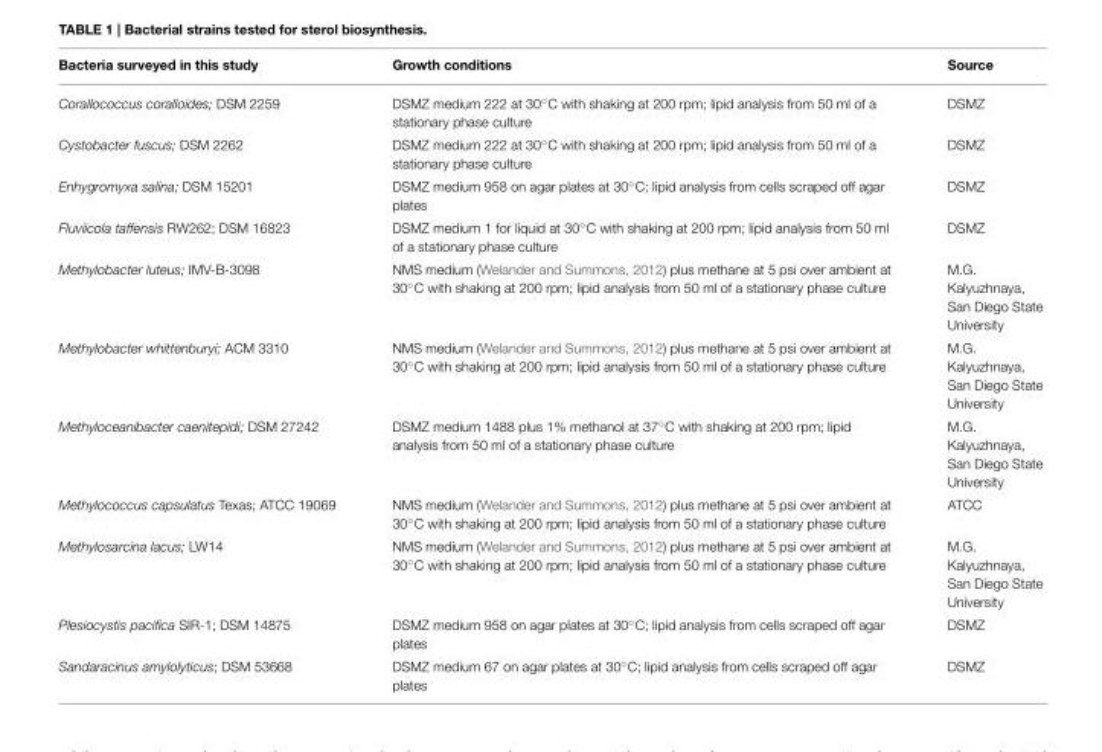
<table><thead><tr><td>Bacteria surveyed in this study</td><td>Growth conditions</td><td>Source</td></tr></thead><tbody><tr><td>Corallococcus coralloides; DSM 2259</td><td>DSMZ medium 222 at 30◦C with shaking at 200 rpm; lipid analysis from 50 ml of a stationary phase culture</td><td>DSMZ</td></tr><tr><td>Cystobacter fuscus; DSM 2262</td><td>DSMZ medium 222 at 30◦C with shaking at 200 rpm; lipid analysis from 50 ml of a stationary phase culture</td><td>DSMZ</td></tr><tr><td>Enhygromyxa salina; DSM 15201</td><td>DSMZ medium 958 on agar plates at 30◦C; lipid analysis from cells scraped off agar plates</td><td>DSMZ</td></tr><tr><td>Fluviicola taffensis RW262; DSM 16823</td><td>DSMZ medium 1 for liquid at 30◦C with shaking at 200 rpm; lipid analysis from 50 ml of a stationary phase culture</td><td>DSMZ</td></tr><tr><td>Methylobacter luteus; IMV-B-3098</td><td>NMS medium (Welander and Summons, 2012) plus methane at 5 psi over ambient at 30◦C with shaking at 200 rpm; lipid analysis from 50 ml of a stationary phase culture</td><td>M.G. Kalyuzhnaya, San Diego State University</td></tr><tr><td>Methylobacter whittenburyi; ACM 3310</td><td>NMS medium (Welander and Summons, 2012) plus methane at 5 psi over ambient at 30◦C with shaking at 200 rpm; lipid analysis from 50 ml of a stationary phase culture</td><td>M.G. Kalyuzhnaya, San Diego State University</td></tr><tr><td>Methyloceanibacter caenitepidi; DSM 27242</td><td>DSMZ medium 1488 plus 1% methanol at 37◦C with shaking at 200 rpm; lipid analysis from 50 ml of a stationary phase culture</td><td>M.G. Kalyuzhnaya, San Diego State University</td></tr><tr><td>Methylococcus capsulatus Texas; ATCC 19069</td><td>NMS medium (Welander and Summons, 2012) plus methane at 5 psi over ambient at 30◦C with shaking at 200 rpm; lipid analysis from 50 ml of a stationary phase culture</td><td>ATCC</td></tr><tr><td>Methylosarcina lacus; LW14</td><td>NMS medium (Welander and Summons, 2012) plus methane at 5 psi over ambient at 30◦C with shaking at 200 rpm; lipid analysis from 50 ml of a stationary phase culture</td><td>M.G. Kalyuzhnaya, San Diego State University</td></tr><tr><td>Plesiocystis pacifica SIR-1; DSM 14875</td><td>DSMZ medium 958 on agar plates at 30◦C; lipid analysis from cells scraped off agar plates</td><td>DSMZ</td></tr><tr><td>Sandaracinus amylolyticus; DSM 53668</td><td>DSMZ medium 67 on agar plates at 30◦C; lipid analysis from cells scraped off agar plates</td><td>DSMZ</td></tr></tbody></table>